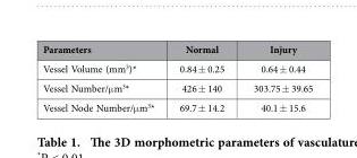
<table><thead><tr><td>Parameters</td><td>Normal</td><td>Injury</td></tr></thead><tbody><tr><td>Vessel Volume (mm<sup>3</sup>)*</td><td>0.84 ± 0.25</td><td>0.64 ± 0.44</td></tr><tr><td>Vessel Number/μ m<sup>3</sup>*</td><td>426 ± 140</td><td>303.75 ± 39.65</td></tr><tr><td>Vessel Node Number/μ m<sup>3</sup>*</td><td>69.7 ± 14.2</td><td>40.1 ± 15.6</td></tr></tbody></table>